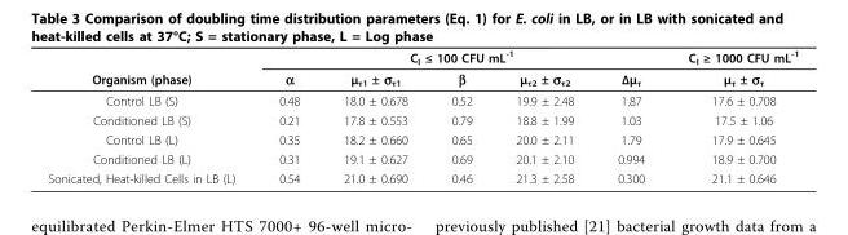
<table><thead><tr><td rowspan="2">Organism (phase)</td><td colspan="5">C<sub>I</sub> ≤ 100 CFU mL<sup>-1</sup></td><td rowspan="2">C<sub>I</sub> ≥ 1000 CFU mL<sup>-1</sup> μ<sub>τ</sub> ± σ<sub>τ</sub></td></tr><tr><td>α</td><td>μ<sub>τ1</sub> ± σ<sub>τ1</sub></td><td>β</td><td>μ<sub>τ2</sub> ± σ<sub>τ2</sub></td><td>Δμ<sub>τ</sub></td></tr></thead><tbody><tr><td>Control LB (S)</td><td>0.48</td><td>18.0 ± 0.678</td><td>0.52</td><td>19.9 ± 2.48</td><td>1.87</td><td>17.6 ± 0.708</td></tr><tr><td>Conditioned LB (S)</td><td>0.21</td><td>17.8 ± 0.553</td><td>0.79</td><td>18.8 ± 1.99</td><td>1.03</td><td>17.5 ± 1.06</td></tr><tr><td>Control LB (L)</td><td>0.35</td><td>18.2 ± 0.660</td><td>0.65</td><td>20.0 ± 2.11</td><td>1.79</td><td>17.9 ± 0.645</td></tr><tr><td>Conditioned LB (L)</td><td>0.31</td><td>19.1 ± 0.627</td><td>0.69</td><td>20.1 ± 2.10</td><td>0.994</td><td>18.9 ± 0.700</td></tr><tr><td>Sonicated, Heat-killed Cells in LB (L)</td><td>0.54</td><td>21.0 ± 0.690</td><td>0.46</td><td>21.3 ± 2.58</td><td>0.300</td><td>21.1 ± 0.646</td></tr></tbody></table>